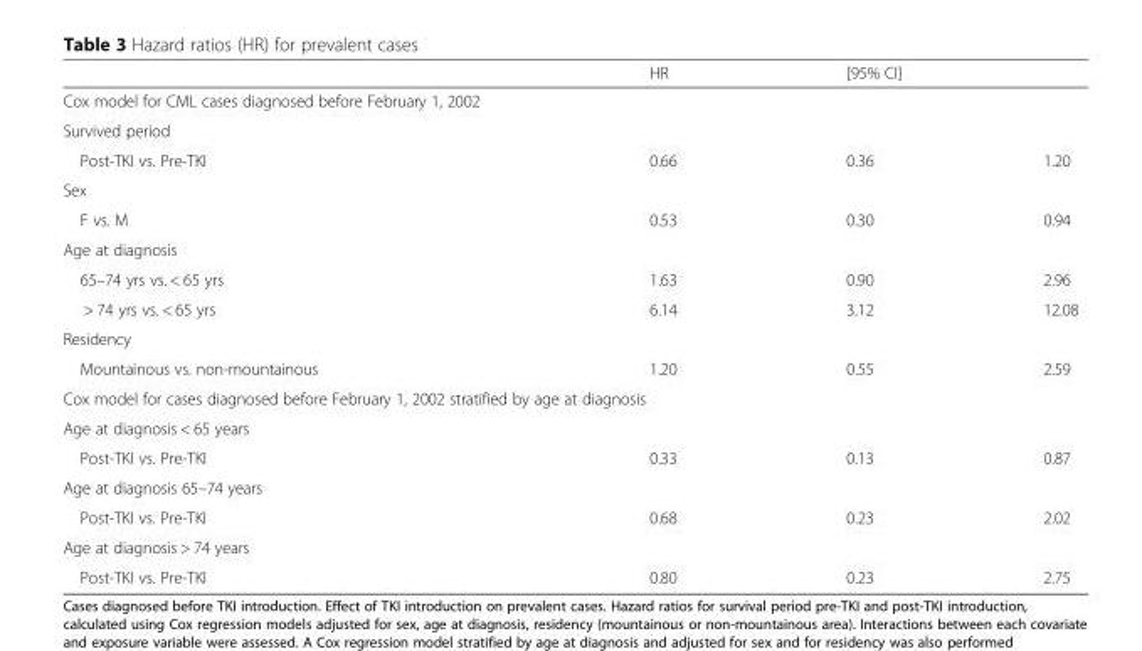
<table><thead><tr><td rowspan="2">Cox model for CML cases diagnosed before February 1, 2002</td><td rowspan="2">HR</td><td rowspan="2" colspan="2">[95% CI]</td></tr><tr></tr><tr><td colspan="4">Survived period</td></tr><tr><td>Post-TKI vs. Pre-TKI</td><td>0.66</td><td>0.36</td><td>1.20</td></tr></thead><tbody><tr><td colspan="4">Sex</td></tr><tr><td>F vs. M</td><td>0.53</td><td>0.30</td><td>0.94</td></tr><tr><td colspan="4">Age at diagnosis</td></tr><tr><td>65–74 yrs vs. &lt; 65 yrs</td><td>1.63</td><td>0.90</td><td>2.96</td></tr><tr><td>&gt; 74 yrs vs. &lt; 65 yrs</td><td>6.14</td><td>3.12</td><td>12.08</td></tr><tr><td colspan="4">Residency</td></tr><tr><td>Mountainous vs. non-mountainous</td><td>1.20</td><td>0.55</td><td>2.59</td></tr><tr><td colspan="4">Cox model for cases diagnosed before February 1, 2002 stratified by age at diagnosis</td></tr><tr><td colspan="4">Age at diagnosis &lt; 65 years</td></tr><tr><td>Post-TKI vs. Pre-TKI</td><td>0.33</td><td>0.13</td><td>0.87</td></tr><tr><td colspan="4">Age at diagnosis 65–74 years</td></tr><tr><td>Post-TKI vs. Pre-TKI</td><td>0.68</td><td>0.23</td><td>2.02</td></tr><tr><td colspan="4">Age at diagnosis &gt; 74 years</td></tr><tr><td>Post-TKI vs. Pre-TKI</td><td>0.80</td><td>0.23</td><td>2.75</td></tr></tbody></table>